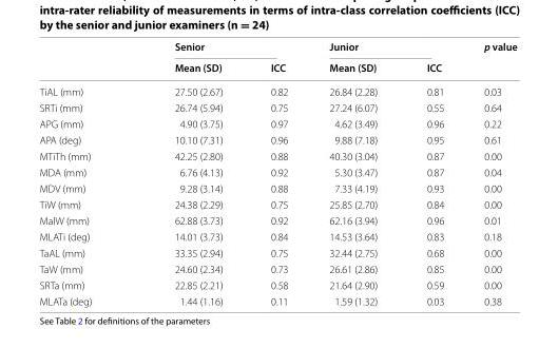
<table><thead><tr><td rowspan="2"></td><td colspan="2">Senior</td><td colspan="2">Junior</td><td rowspan="2">p value</td></tr><tr><td>Mean (SD)</td><td>ICC</td><td>Mean (SD)</td><td>ICC</td></tr></thead><tbody><tr><td>TiAL (mm)</td><td>27.50 (2.67)</td><td>0.82</td><td>26.84 (2.28)</td><td>0.81</td><td>0.03</td></tr><tr><td>SRTi (mm)</td><td>26.74 (5.94)</td><td>0.75</td><td>27.24 (6.07)</td><td>0.55</td><td>0.64</td></tr><tr><td>APG (mm)</td><td>4.90 (3.75)</td><td>0.97</td><td>4.62 (3.49)</td><td>0.96</td><td>0.22</td></tr><tr><td>APA (deg)</td><td>10.10 (7.31)</td><td>0.96</td><td>9.88 (7.18)</td><td>0.95</td><td>0.61</td></tr><tr><td>MTiTh (mm)</td><td>42.25 (2.80)</td><td>0.88</td><td>40.30 (3.04)</td><td>0.87</td><td>0.00</td></tr><tr><td>MDA (mm)</td><td>6.76 (4.13)</td><td>0.92</td><td>5.30 (3.47)</td><td>0.87</td><td>0.04</td></tr><tr><td>MDV (mm)</td><td>9.28 (3.14)</td><td>0.88</td><td>7.33 (4.19)</td><td>0.93</td><td>0.00</td></tr><tr><td>TiW (mm)</td><td>24.38 (2.29)</td><td>0.75</td><td>25.85 (2.70)</td><td>0.84</td><td>0.00</td></tr><tr><td>MalW (mm)</td><td>62.88 (3.73)</td><td>0.92</td><td>62.16 (3.94)</td><td>0.96</td><td>0.01</td></tr><tr><td>MLATi (deg)</td><td>14.01 (3.73)</td><td>0.84</td><td>14.53 (3.64)</td><td>0.83</td><td>0.18</td></tr><tr><td>TaAL (mm)</td><td>33.35 (2.94)</td><td>0.75</td><td>32.44 (2.75)</td><td>0.68</td><td>0.00</td></tr><tr><td>TaW (mm)</td><td>24.60 (2.34)</td><td>0.73</td><td>26.61 (2.86)</td><td>0.85</td><td>0.00</td></tr><tr><td>SRTa (mm)</td><td>22.85 (2.21)</td><td>0.58</td><td>21.64 (2.90)</td><td>0.59</td><td>0.00</td></tr><tr><td>MLATa (deg)</td><td>1.44 (1.16)</td><td>0.11</td><td>1.59 (1.32)</td><td>0.03</td><td>0.38</td></tr></tbody></table>